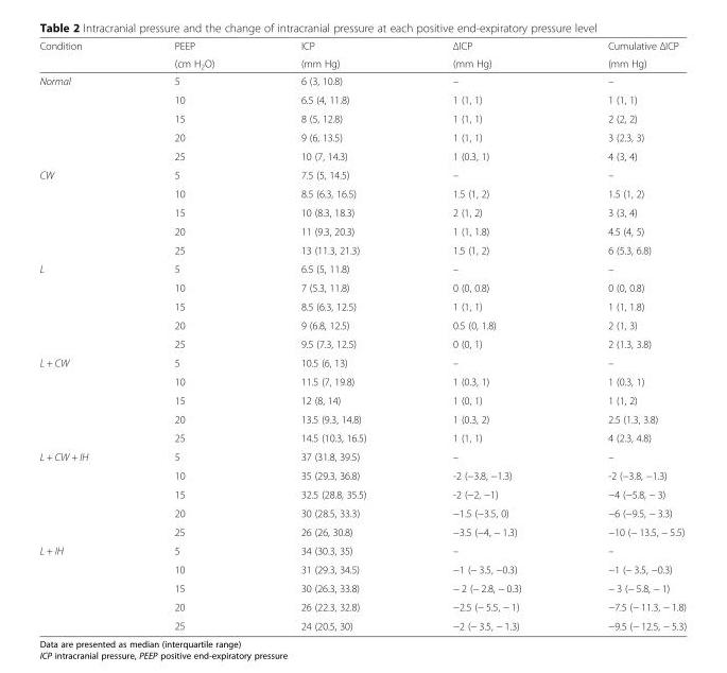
<table><thead><tr><td rowspan="2">Condition</td><td rowspan="2">PEEP (cm H<sub>2</sub>O)</td><td rowspan="2">ICP (mm Hg)</td><td rowspan="2">ΔICP (mm Hg)</td><td rowspan="2">Cumulative ΔICP (mm Hg)</td></tr><tr></tr></thead><tbody><tr><td rowspan="5">Normal</td><td>5</td><td>6 (3, 10.8)</td><td>–</td><td>–</td></tr><tr><td>10</td><td>6.5 (4, 11.8)</td><td>1 (1, 1)</td><td>1 (1, 1)</td></tr><tr><td>15</td><td>8 (5, 12.8)</td><td>1 (1, 1)</td><td>2 (2, 2)</td></tr><tr><td>20</td><td>9 (6, 13.5)</td><td>1 (1, 1)</td><td>3 (2.3, 3)</td></tr><tr><td>25</td><td>10 (7, 14.3)</td><td>1 (0.3, 1)</td><td>4 (3, 4)</td></tr><tr><td rowspan="5">CW</td><td>5</td><td>7.5 (5, 14.5)</td><td>–</td><td>–</td></tr><tr><td>10</td><td>8.5 (6.3, 16.5)</td><td>1.5 (1, 2)</td><td>1.5 (1, 2)</td></tr><tr><td>15</td><td>10 (8.3, 18.3)</td><td>2 (1, 2)</td><td>3 (3, 4)</td></tr><tr><td>20</td><td>11 (9.3, 20.3)</td><td>1 (1, 1.8)</td><td>4.5 (4, 5)</td></tr><tr><td>25</td><td>13 (11.3, 21.3)</td><td>1.5 (1, 2)</td><td>6 (5.3, 6.8)</td></tr><tr><td rowspan="5">L</td><td>5</td><td>6.5 (5, 11.8)</td><td>–</td><td>–</td></tr><tr><td>10</td><td>7 (5.3, 11.8)</td><td>0 (0, 0.8)</td><td>0 (0, 0.8)</td></tr><tr><td>15</td><td>8.5 (6.3, 12.5)</td><td>1 (1, 1)</td><td>1 (1, 1.8)</td></tr><tr><td>20</td><td>9 (6.8, 12.5)</td><td>0.5 (0, 1.8)</td><td>2 (1, 3)</td></tr><tr><td>25</td><td>9.5 (7.3, 12.5)</td><td>0 (0, 1)</td><td>2 (1.3, 3.8)</td></tr><tr><td rowspan="5">L + CW</td><td>5</td><td>10.5 (6, 13)</td><td>–</td><td>–</td></tr><tr><td>10</td><td>11.5 (7, 19.8)</td><td>1 (0.3, 1)</td><td>1 (0.3, 1)</td></tr><tr><td>15</td><td>12 (8, 14)</td><td>1 (0, 1)</td><td>1 (1, 2)</td></tr><tr><td>20</td><td>13.5 (9.3, 14.8)</td><td>1 (0.3, 2)</td><td>2.5 (1.3, 3.8)</td></tr><tr><td>25</td><td>14.5 (10.3, 16.5)</td><td>1 (1, 1)</td><td>4 (2.3, 4.8)</td></tr><tr><td rowspan="5">L + CW + IH</td><td>5</td><td>37 (31.8, 39.5)</td><td>–</td><td>–</td></tr><tr><td>10</td><td>35 (29.3, 36.8)</td><td>-2 (−3.8, −1.3)</td><td>-2 (−3.8, −1.3)</td></tr><tr><td>15</td><td>32.5 (28.8, 35.5)</td><td>-2 (−2, −1)</td><td>−4 (−5.8, − 3)</td></tr><tr><td>20</td><td>30 (28.5, 33.3)</td><td>−1.5 (−3.5, 0)</td><td>−6 (−9.5, − 3.3)</td></tr><tr><td>25</td><td>26 (26, 30.8)</td><td>−3.5 (−4, − 1.3)</td><td>−10 (− 13.5, − 5.5)</td></tr><tr><td rowspan="5">L + IH</td><td>5</td><td>34 (30.3, 35)</td><td>–</td><td>–</td></tr><tr><td>10</td><td>31 (29.3, 34.5)</td><td>−1 (− 3.5, −0.3)</td><td>−1 (− 3.5, −0.3)</td></tr><tr><td>15</td><td>30 (26.3, 33.8)</td><td>− 2 (− 2.8, − 0.3)</td><td>− 3 (− 5.8, − 1)</td></tr><tr><td>20</td><td>26 (22.3, 32.8)</td><td>−2.5 (− 5.5, − 1)</td><td>−7.5 (− 11.3, − 1.8)</td></tr><tr><td>25</td><td>24 (20.5, 30)</td><td>−2 (− 3.5, − 1.3)</td><td>−9.5 (− 12.5, − 5.3)</td></tr></tbody></table>